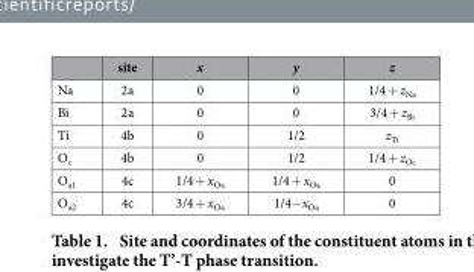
<table><thead><tr><td></td><td>site</td><td>x</td><td>y</td><td>z</td></tr></thead><tbody><tr><td>Na</td><td>2a</td><td>0</td><td>0</td><td>1/4 + z<sub>Na</sub></td></tr><tr><td>Bi</td><td>2a</td><td>0</td><td>0</td><td>3/4 + z<sub>Bi</sub></td></tr><tr><td>Ti</td><td>4b</td><td>0</td><td>1/2</td><td>z<sub>Ti</sub></td></tr><tr><td>O<sub>c</sub></td><td>4b</td><td>0</td><td>1/2</td><td>1/4 + z<sub>Oc</sub></td></tr><tr><td>O<sub>a1</sub></td><td>4c</td><td>1/4 + x<sub>Oa</sub></td><td>1/4 + x<sub>Oa</sub></td><td>0</td></tr><tr><td>O<sub>a2</sub></td><td>4c</td><td>3/4 + x<sub>Oa</sub></td><td>1/4− x<sub>Oa</sub></td><td>0</td></tr></tbody></table>